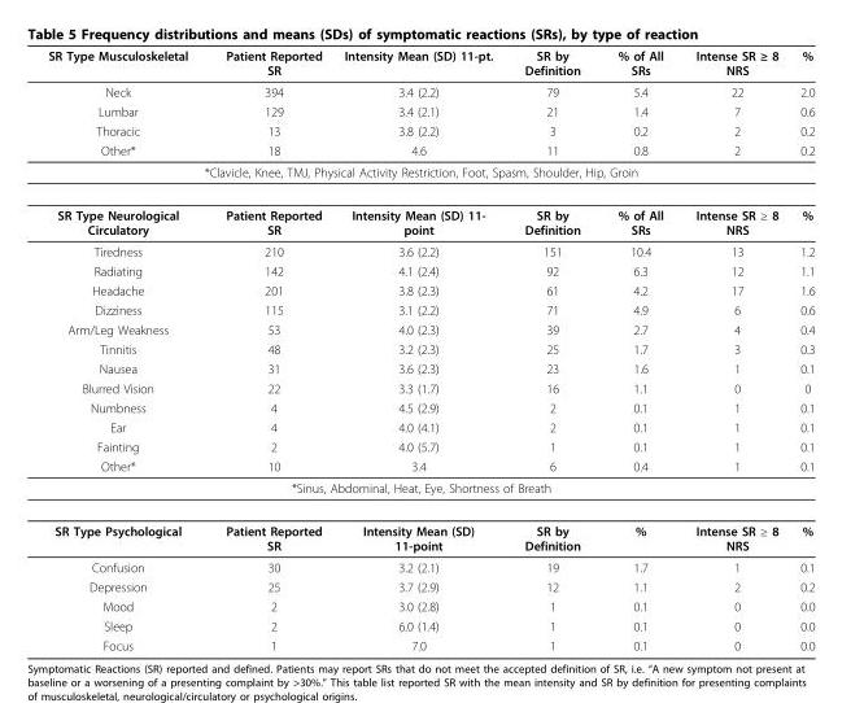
<table><thead><tr><td>SR Type Musculoskeletal</td><td>Patient Reported SR</td><td>Intensity Mean (SD) 11-pt.</td><td>SR by Definition</td><td>% of All SRs</td><td>Intense SR ≥ 8 NRS</td><td>%</td></tr></thead><tbody><tr><td>Neck</td><td>394</td><td>3.4 (2.2)</td><td>79</td><td>5.4</td><td>22</td><td>2.0</td></tr><tr><td>Lumbar</td><td>129</td><td>3.4 (2.1)</td><td>21</td><td>1.4</td><td>7</td><td>0.6</td></tr><tr><td>Thoracic</td><td>13</td><td>3.8 (2.2)</td><td>3</td><td>0.2</td><td>2</td><td>0.2</td></tr><tr><td>Other*</td><td>18</td><td>4.6</td><td>11</td><td>0.8</td><td>2</td><td>0.2</td></tr><tr><td colspan="7">*Clavicle, Knee, TMJ, Physical Activity Restriction, Foot, Spasm, Shoulder, Hip, Groin</td></tr><tr><td>SR Type Neurological Circulatory</td><td>Patient Reported SR</td><td>Intensity Mean (SD) 11- point</td><td>SR by Definition</td><td>% of All SRs</td><td>Intense SR ≥ 8 NRS</td><td>%</td></tr><tr><td>Tiredness</td><td>210</td><td>3.6 (2.2)</td><td>151</td><td>10.4</td><td>13</td><td>1.2</td></tr><tr><td>Radiating</td><td>142</td><td>4.1 (2.4)</td><td>92</td><td>6.3</td><td>12</td><td>1.1</td></tr><tr><td>Headache</td><td>201</td><td>3.8 (2.3)</td><td>61</td><td>4.2</td><td>17</td><td>1.6</td></tr><tr><td>Dizziness</td><td>115</td><td>3.1 (2.2)</td><td>71</td><td>4.9</td><td>6</td><td>0.6</td></tr><tr><td>Arm/Leg Weakness</td><td>53</td><td>4.0 (2.3)</td><td>39</td><td>2.7</td><td>4</td><td>0.4</td></tr><tr><td>Tinnitis</td><td>48</td><td>3.2 (2.3)</td><td>25</td><td>1.7</td><td>3</td><td>0.3</td></tr><tr><td>Nausea</td><td>31</td><td>3.6 (2.3)</td><td>23</td><td>1.6</td><td>1</td><td>0.1</td></tr><tr><td>Blurred Vision</td><td>22</td><td>3.3 (1.7)</td><td>16</td><td>1.1</td><td>0</td><td>0</td></tr><tr><td>Numbness</td><td>4</td><td>4.5 (2.9)</td><td>2</td><td>0.1</td><td>1</td><td>0.1</td></tr><tr><td>Ear</td><td>4</td><td>4.0 (4.1)</td><td>2</td><td>0.1</td><td>1</td><td>0.1</td></tr><tr><td>Fainting</td><td>2</td><td>4.0 (5.7)</td><td>1</td><td>0.1</td><td>1</td><td>0.1</td></tr><tr><td>Other*</td><td>10</td><td>3.4</td><td>6</td><td>0.4</td><td>1</td><td>0.1</td></tr><tr><td colspan="7">*Sinus, Abdominal, Heat, Eye, Shortness of Breath</td></tr><tr><td>SR Type Psychological</td><td>Patient Reported SR</td><td>Intensity Mean (SD) 11-point</td><td>SR by Definition</td><td>%</td><td>Intense SR ≥ 8 NRS</td><td>%</td></tr><tr><td>Confusion</td><td>30</td><td>3.2 (2.1)</td><td>19</td><td>1.7</td><td>1</td><td>0.1</td></tr><tr><td>Depression</td><td>25</td><td>3.7 (2.9)</td><td>12</td><td>1.1</td><td>2</td><td>0.2</td></tr><tr><td>Mood</td><td>2</td><td>3.0 (2.8)</td><td>1</td><td>0.1</td><td>0</td><td>0.0</td></tr><tr><td>Sleep</td><td>2</td><td>6.0 (1.4)</td><td>1</td><td>0.1</td><td>0</td><td>0.0</td></tr><tr><td>Focus</td><td>1</td><td>7.0</td><td>1</td><td>0.1</td><td>0</td><td>0.0</td></tr></tbody></table>